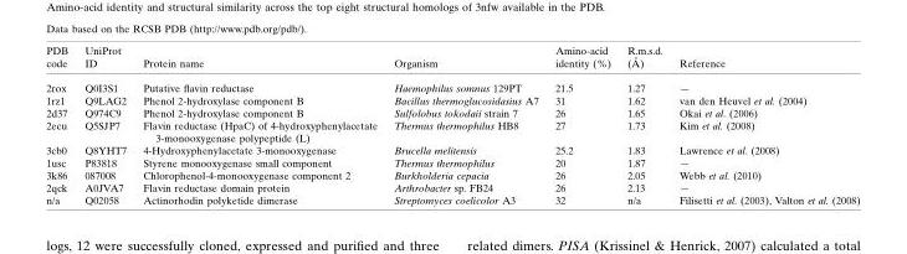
<table><thead><tr><td>PDB code</td><td>UniProt ID</td><td>Protein name</td><td>Organism</td><td>Amino-acid identity (%)</td><td>R.m.s.d. (A˚ )</td><td>Reference</td></tr></thead><tbody><tr><td>2rox</td><td>Q0I3S1</td><td>Putative flavin reductase</td><td>Haemophilus somnus 129PT</td><td>21.5</td><td>1.27</td><td>—</td></tr><tr><td>1rz1</td><td>Q9LAG2</td><td>Phenol 2-hydroxylase component B</td><td>Bacillus thermoglucosidasius A7</td><td>31</td><td>1.62</td><td>van den Heuvel et al. (2004)</td></tr><tr><td>2d37</td><td>Q974C9</td><td>Phenol 2-hydroxylase component B</td><td>Sulfolobus tokodaii strain 7</td><td>26</td><td>1.65</td><td>Okai et al. (2006)</td></tr><tr><td>2ecu</td><td>Q5SJP7</td><td>Flavin reductase (HpaC) of 4-hydroxyphenylacetate 3-monooxygenase polypeptide (L)</td><td>Thermus thermophilus HB8</td><td>27</td><td>1.73</td><td>Kim et al. (2008)</td></tr><tr><td>3cb0</td><td>Q8YHT7</td><td>4-Hydroxyphenylacetate 3-monooxygenase</td><td>Brucella melitensis</td><td>25.2</td><td>1.83</td><td>Lawrence et al. (2008)</td></tr><tr><td>1usc</td><td>P83818</td><td>Styrene monooxygenase small component</td><td>Thermus thermophilus</td><td>20</td><td>1.87</td><td>—</td></tr><tr><td>3k86</td><td>087008</td><td>Chlorophenol-4-monooxygenase component 2</td><td>Burkholderia cepacia</td><td>26</td><td>2.05</td><td>Webb et al. (2010)</td></tr><tr><td>2qck</td><td>A0JVA7</td><td>Flavin reductase domain protein</td><td>Arthrobacter sp. FB24</td><td>26</td><td>2.13</td><td>—</td></tr><tr><td>n/a</td><td>Q02058</td><td>Actinorhodin polyketide dimerase</td><td>Streptomyces coelicolor A3</td><td>32</td><td>n/a</td><td>Filisetti et al. (2003), Valton et al. (2008)</td></tr></tbody></table>